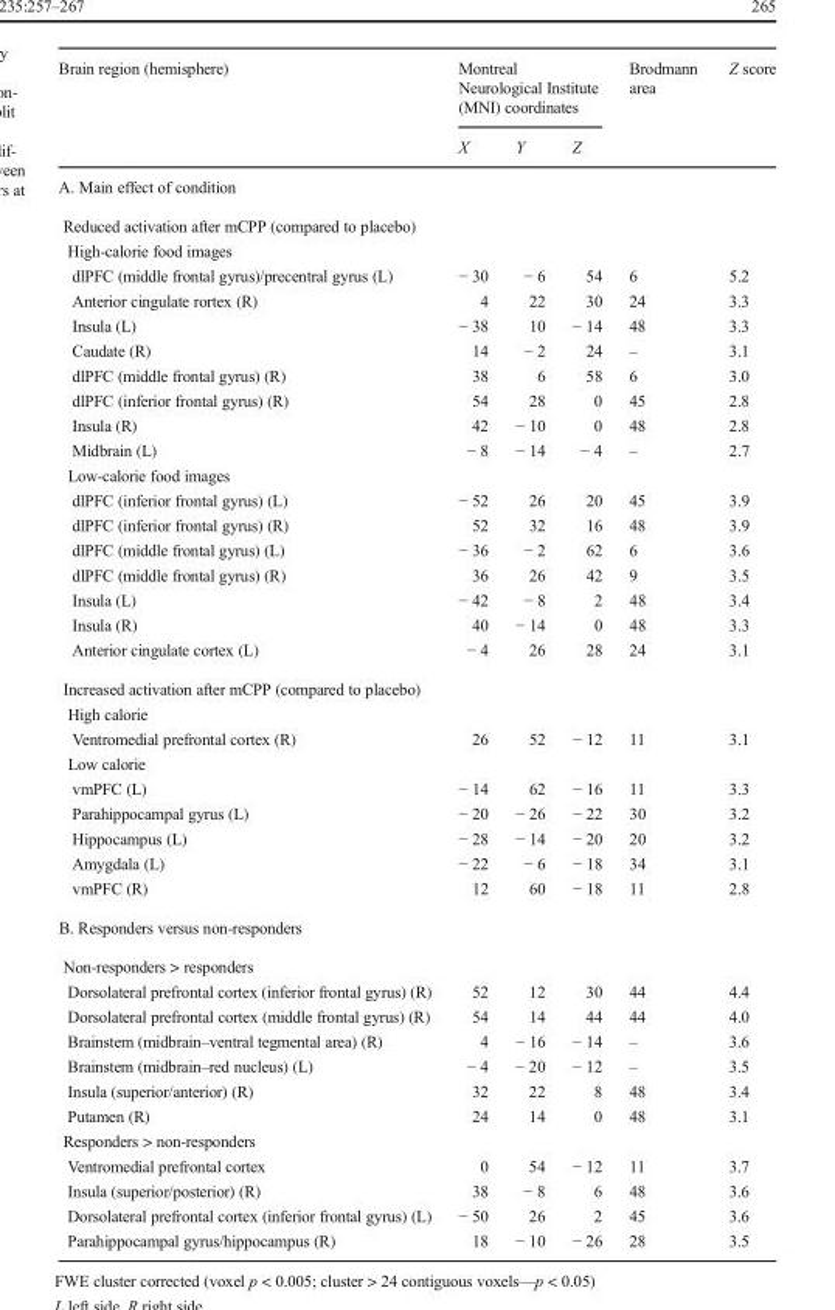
<table><thead><tr><td rowspan="2">Brain region (hemisphere)</td><td colspan="3">Montreal Neurological Institute (MNI) coordinates</td><td rowspan="2">Brodmann area</td><td rowspan="2">Z score</td></tr><tr><td>X</td><td>Y</td><td>Z</td></tr></thead><tbody><tr><td colspan="6">A. Main effect of condition</td></tr><tr><td colspan="6">Reduced activation after mCPP (compared to placebo)</td></tr><tr><td colspan="6">High-calorie food images</td></tr><tr><td>dlPFC (middle frontal gyrus)/precentral gyrus (L)</td><td>− 30</td><td>− 6</td><td>54</td><td>6</td><td>5.2</td></tr><tr><td>Anterior cingulate rortex (R)</td><td>4</td><td>22</td><td>30</td><td>24</td><td>3.3</td></tr><tr><td>Insula (L)</td><td>− 38</td><td>10</td><td>− 14</td><td>48</td><td>3.3</td></tr><tr><td>Caudate (R)</td><td>14</td><td>− 2</td><td>24</td><td>–</td><td>3.1</td></tr><tr><td>dlPFC (middle frontal gyrus) (R)</td><td>38</td><td>6</td><td>58</td><td>6</td><td>3.0</td></tr><tr><td>dlPFC (inferior frontal gyrus) (R)</td><td>54</td><td>28</td><td>0</td><td>45</td><td>2.8</td></tr><tr><td>Insula (R)</td><td>42</td><td>− 10</td><td>0</td><td>48</td><td>2.8</td></tr><tr><td>Midbrain (L)</td><td>− 8</td><td>− 14</td><td>− 4</td><td>–</td><td>2.7</td></tr><tr><td colspan="6">Low-calorie food images</td></tr><tr><td>dlPFC (inferior frontal gyrus) (L)</td><td>− 52</td><td>26</td><td>20</td><td>45</td><td>3.9</td></tr><tr><td>dlPFC (inferior frontal gyrus) (R)</td><td>52</td><td>32</td><td>16</td><td>48</td><td>3.9</td></tr><tr><td>dlPFC (middle frontal gyrus) (L)</td><td>− 36</td><td>− 2</td><td>62</td><td>6</td><td>3.6</td></tr><tr><td>dlPFC (middle frontal gyrus) (R)</td><td>36</td><td>26</td><td>42</td><td>9</td><td>3.5</td></tr><tr><td>Insula (L)</td><td>− 42</td><td>− 8</td><td>2</td><td>48</td><td>3.4</td></tr><tr><td>Insula (R)</td><td>40</td><td>− 14</td><td>0</td><td>48</td><td>3.3</td></tr><tr><td>Anterior cingulate cortex (L)</td><td>− 4</td><td>26</td><td>28</td><td>24</td><td>3.1</td></tr><tr><td colspan="6">Increased activation after mCPP (compared to placebo)</td></tr><tr><td colspan="6">High calorie</td></tr><tr><td>Ventromedial prefrontal cortex (R)</td><td>26</td><td>52</td><td>− 12</td><td>11</td><td>3.1</td></tr><tr><td colspan="6">Low calorie</td></tr><tr><td>vmPFC (L)</td><td>− 14</td><td>62</td><td>− 16</td><td>11</td><td>3.3</td></tr><tr><td>Parahippocampal gyrus (L)</td><td>− 20</td><td>− 26</td><td>− 22</td><td>30</td><td>3.2</td></tr><tr><td>Hippocampus (L)</td><td>− 28</td><td>− 14</td><td>− 20</td><td>20</td><td>3.2</td></tr><tr><td>Amygdala (L)</td><td>− 22</td><td>− 6</td><td>− 18</td><td>34</td><td>3.1</td></tr><tr><td>vmPFC (R)</td><td>12</td><td>60</td><td>− 18</td><td>11</td><td>2.8</td></tr><tr><td colspan="6">B. Responders versus non-responders</td></tr><tr><td colspan="6">Non-responders &gt; responders</td></tr><tr><td>Dorsolateral prefrontal cortex (inferior frontal gyrus) (R)</td><td>52</td><td>12</td><td>30</td><td>44</td><td>4.4</td></tr><tr><td>Dorsolateral prefrontal cortex (middle frontal gyrus) (R)</td><td>54</td><td>14</td><td>44</td><td>44</td><td>4.0</td></tr><tr><td>Brainstem (midbrain–ventral tegmental area) (R)</td><td>4</td><td>− 16</td><td>− 14</td><td>–</td><td>3.6</td></tr><tr><td>Brainstem (midbrain–red nucleus) (L)</td><td>− 4</td><td>− 20</td><td>− 12</td><td>–</td><td>3.5</td></tr><tr><td>Insula (superior/anterior) (R)</td><td>32</td><td>22</td><td>8</td><td>48</td><td>3.4</td></tr><tr><td>Putamen (R)</td><td>24</td><td>14</td><td>0</td><td>48</td><td>3.1</td></tr><tr><td colspan="6">Responders &gt; non-responders</td></tr><tr><td>Ventromedial prefrontal cortex</td><td>0</td><td>54</td><td>− 12</td><td>11</td><td>3.7</td></tr><tr><td>Insula (superior/posterior) (R)</td><td>38</td><td>− 8</td><td>6</td><td>48</td><td>3.6</td></tr><tr><td>Dorsolateral prefrontal cortex (inferior frontal gyrus) (L)</td><td>− 50</td><td>26</td><td>2</td><td>45</td><td>3.6</td></tr><tr><td>Parahippocampal gyrus/hippocampus (R)</td><td>18</td><td>− 10</td><td>− 26</td><td>28</td><td>3.5</td></tr></tbody></table>